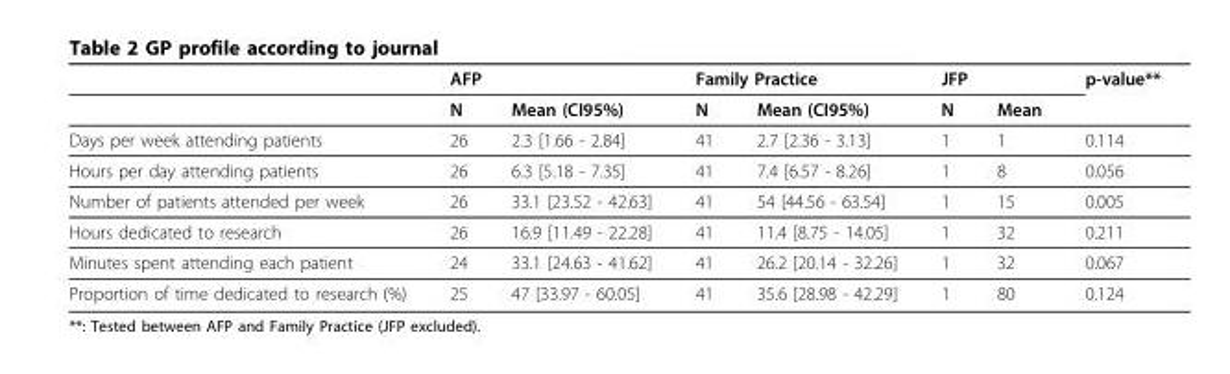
<table><thead><tr><td rowspan="2"></td><td colspan="2">AFP</td><td colspan="2">Family Practice</td><td colspan="2">JFP</td><td rowspan="2">p-value**</td></tr><tr><td>N</td><td>Mean (CI95%)</td><td>N</td><td>Mean (CI95%)</td><td>N</td><td>Mean</td></tr></thead><tbody><tr><td>Days per week attending patients</td><td>26</td><td>2.3 [1.66 - 2.84]</td><td>41</td><td>2.7 [2.36 - 3.13]</td><td>1</td><td>1</td><td>0.114</td></tr><tr><td>Hours per day attending patients</td><td>26</td><td>6.3 [5.18 - 7.35]</td><td>41</td><td>7.4 [6.57 - 8.26]</td><td>1</td><td>8</td><td>0.056</td></tr><tr><td>Number of patients attended per week</td><td>26</td><td>33.1 [23.52 - 42.63]</td><td>41</td><td>54 [44.56 - 63.54]</td><td>1</td><td>15</td><td>0.005</td></tr><tr><td>Hours dedicated to research</td><td>26</td><td>16.9 [11.49 - 22.28]</td><td>41</td><td>11.4 [8.75 - 14.05]</td><td>1</td><td>32</td><td>0.211</td></tr><tr><td>Minutes spent attending each patient</td><td>24</td><td>33.1 [24.63 - 41.62]</td><td>41</td><td>26.2 [20.14 - 32.26]</td><td>1</td><td>32</td><td>0.067</td></tr><tr><td>Proportion of time dedicated to research (%)</td><td>25</td><td>47 [33.97 - 60.05]</td><td>41</td><td>35.6 [28.98 - 42.29]</td><td>1</td><td>80</td><td>0.124</td></tr></tbody></table>